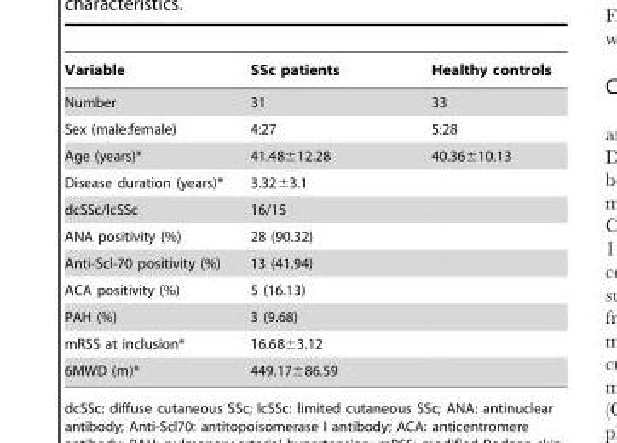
<table><thead><tr><td>Variable</td><td>SSc patients</td><td>Healthy controls</td></tr></thead><tbody><tr><td>Number</td><td>31</td><td>33</td></tr><tr><td>Sex (male:female)</td><td>4:27</td><td>5:28</td></tr><tr><td>Age (years)*</td><td>41.48±12.28</td><td>40.36±10.13</td></tr><tr><td>Disease duration (years)*</td><td>3.32±3.1</td><td></td></tr><tr><td>dcSSc/lcSSc</td><td>16/15</td><td></td></tr><tr><td>ANA positivity (%)</td><td>28 (90.32)</td><td></td></tr><tr><td>Anti-Scl-70 positivity (%)</td><td>13 (41.94)</td><td></td></tr><tr><td>ACA positivity (%)</td><td>5 (16.13)</td><td></td></tr><tr><td>PAH (%)</td><td>3 (9.68)</td><td></td></tr><tr><td>mRSS at inclusion*</td><td>16.68±3.12</td><td></td></tr><tr><td>6MWD (m)*</td><td>449.17±86.59</td><td></td></tr></tbody></table>